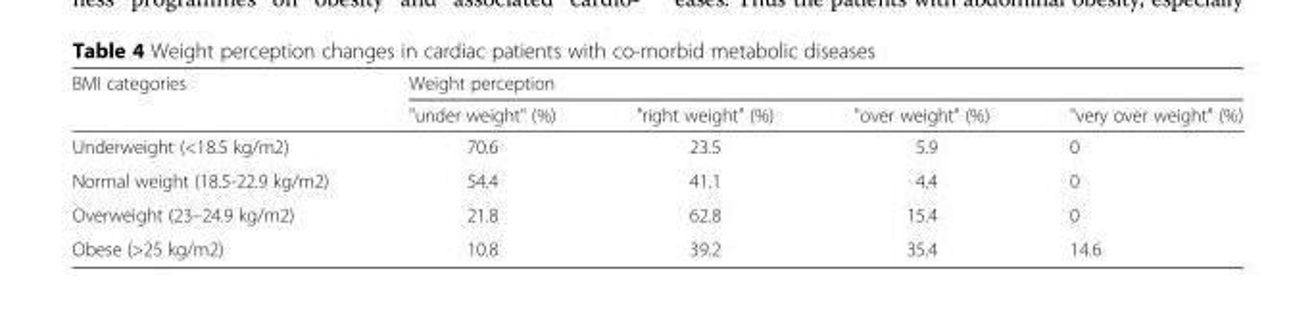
<table><thead><tr><td rowspan="2">BMI categories</td><td colspan="4">Weight perception</td></tr><tr><td>&quot;under weight&quot; (%)</td><td>&quot;right weight&quot; (%)</td><td>&quot;over weight&quot; (%)</td><td>&quot;very over weight&quot; (%)</td></tr></thead><tbody><tr><td>Underweight (&lt;18.5 kg/m2)</td><td>70.6</td><td>23.5</td><td>5.9</td><td>0</td></tr><tr><td>Normal weight (18.5-22.9 kg/m2)</td><td>54.4</td><td>41.1</td><td>4.4</td><td>0</td></tr><tr><td>Overweight (23–24.9 kg/m2)</td><td>21.8</td><td>62.8</td><td>15.4</td><td>0</td></tr><tr><td>Obese (&gt;25 kg/m2)</td><td>10.8</td><td>39.2</td><td>35.4</td><td>14.6</td></tr></tbody></table>